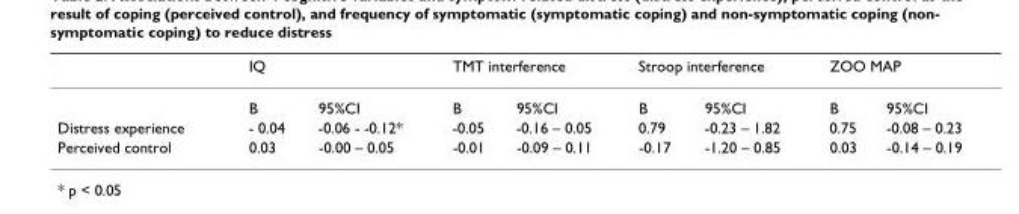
<table><thead><tr><td rowspan="2"></td><td colspan="2">IQ</td><td colspan="2">TMT interference</td><td colspan="2">Stroop interference</td><td colspan="2">ZOO MAP</td></tr><tr><td>B</td><td>95%CI</td><td>B</td><td>95%CI</td><td>B</td><td>95%CI</td><td>B</td><td>95%CI</td></tr></thead><tbody><tr><td>Distress experience</td><td>- 0.04</td><td>-0.06 - -0.12*</td><td>-0.05</td><td>-0.16 – 0.05</td><td>0.79</td><td>-0.23 – 1.82</td><td>0.75</td><td>-0.08 – 0.23</td></tr><tr><td>Perceived control</td><td>0.03</td><td>-0.00 – 0.05</td><td>-0.01</td><td>-0.09 – 0.11</td><td>-0.17</td><td>-1.20 – 0.85</td><td>0.03</td><td>-0.14 – 0.19</td></tr></tbody></table>